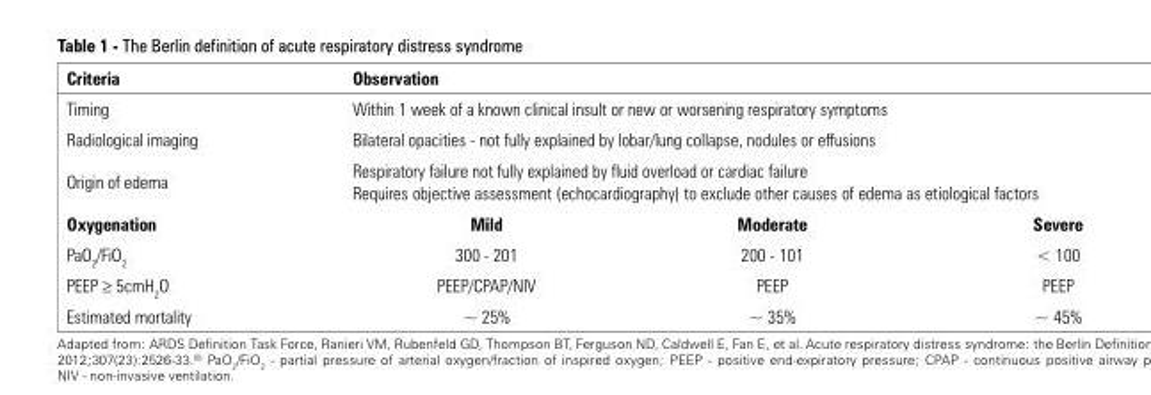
<table><thead><tr><td>Criteria</td><td colspan="3">Observation</td></tr></thead><tbody><tr><td>Timing</td><td colspan="3">Within 1 week of a known clinical insult or new or worsening respiratory symptoms</td></tr><tr><td>Radiological imaging</td><td colspan="3">Bilateral opacities - not fully explained by lobar/lung collapse, nodules or effusions</td></tr><tr><td rowspan="2">Origin of edema</td><td colspan="3">Respiratory failure not fully explained by fluid overload or cardiac failure</td></tr><tr><td colspan="3">Requires objective assessment (echocardiography) to exclude other causes of edema as etiological factors</td></tr><tr><td>Oxygenation</td><td>Mild</td><td>Moderate</td><td>Severe</td></tr><tr><td>PaO<sub>2</sub>/FiO<sub>2</sub></td><td>300 - 201</td><td>200 - 101</td><td>&lt; 100</td></tr><tr><td>PEEP ≥ 5cmH<sub>2</sub>O</td><td>PEEP/CPAP/NIV</td><td>PEEP</td><td>PEEP</td></tr><tr><td>Estimated mortality</td><td>~ 25%</td><td>~ 35%</td><td>~ 45%</td></tr></tbody></table>